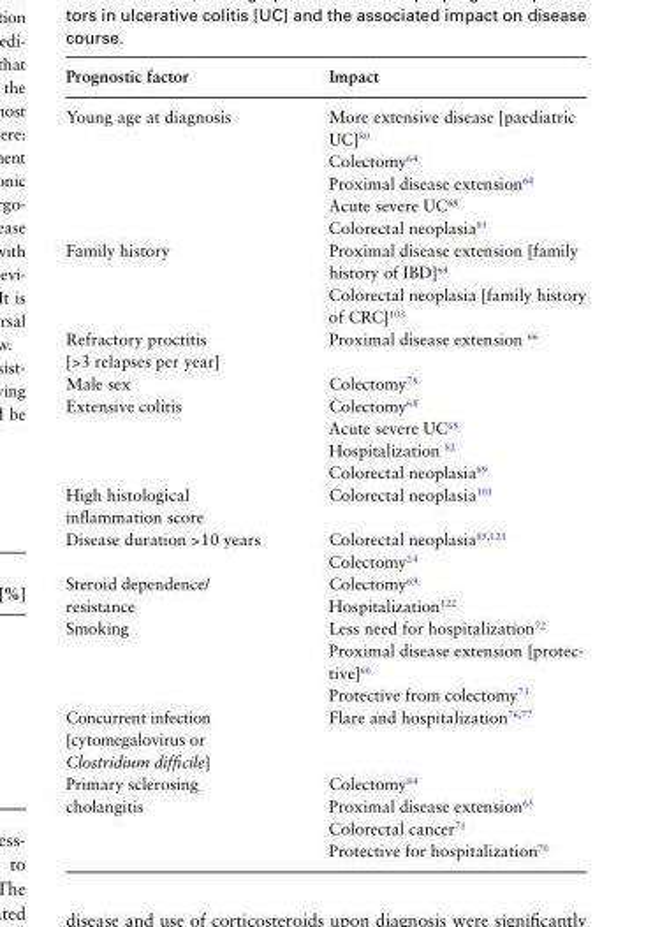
<table><thead><tr><td>Prognostic factor</td><td>Impact</td></tr></thead><tbody><tr><td>Young age at diagnosis</td><td>More extensive disease [paediatric UC]<sup>80</sup> Colectomy<sup>64</sup> Proximal disease extension<sup>64</sup> Acute severe UC<sup>68</sup> Colorectal neoplasia<sup>85</sup></td></tr><tr><td>Family history</td><td>Proximal disease extension [family history of IBD]<sup>64</sup> Colorectal neoplasia [family history of CRC]<sup>103</sup></td></tr><tr><td>Refractory proctitis [&gt;3 relapses per year]</td><td>Proximal disease extension <sup>66</sup></td></tr><tr><td>Male sex</td><td>Colectomy<sup>78</sup></td></tr><tr><td>Extensive colitis</td><td>Colectomy<sup>68</sup> Acute severe UC<sup>68</sup> Hospitalization <sup>82</sup> Colorectal neoplasia<sup>89</sup></td></tr><tr><td>High histological inflammation score</td><td>Colorectal neoplasia<sup>101</sup></td></tr><tr><td>Disease duration &gt;10 years</td><td>Colorectal neoplasia<sup>85,121</sup> Colectomy<sup>24</sup></td></tr><tr><td>Steroid dependence/ resistance</td><td>Colectomy<sup>69</sup> Hospitalization<sup>122</sup></td></tr><tr><td>Smoking</td><td>Less need for hospitalization72 Proximal disease extension [protec- tive]66 Protective from colectomy73</td></tr><tr><td>Concurrent infection [cytomegalovirus or Clostridium difficile]</td><td>Flare and hospitalization<sup>76,77</sup></td></tr><tr><td>Primary sclerosing cholangitis</td><td>Colectomy<sup>84</sup> Proximal disease extension<sup>65</sup> Colorectal cancer<sup>71</sup> Protective for hospitalization<sup>70</sup></td></tr></tbody></table>